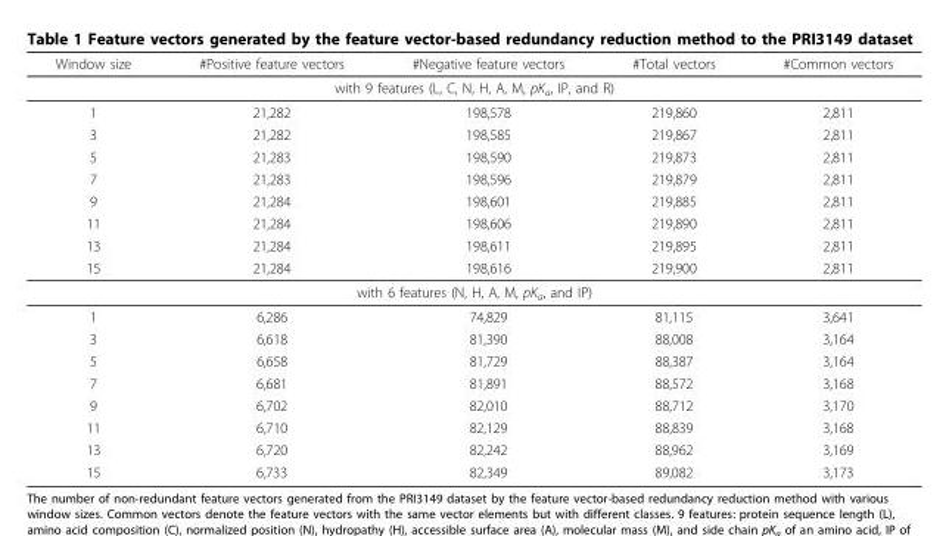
<table><thead><tr><td>Window size</td><td>#Positive feature vectors</td><td>#Negative feature vectors</td><td>#Total vectors</td><td>#Common vectors</td></tr></thead><tbody><tr><td colspan="5">with 9 features (L, C, N, H, A, M, pK<sub>a</sub>, IP, and R)</td></tr><tr><td>1</td><td>21,282</td><td>198,578</td><td>219,860</td><td>2,811</td></tr><tr><td>3</td><td>21,282</td><td>198,585</td><td>219,867</td><td>2,811</td></tr><tr><td>5</td><td>21,283</td><td>198,590</td><td>219,873</td><td>2,811</td></tr><tr><td>7</td><td>21,283</td><td>198,596</td><td>219,879</td><td>2,811</td></tr><tr><td>9</td><td>21,284</td><td>198,601</td><td>219,885</td><td>2,811</td></tr><tr><td>11</td><td>21,284</td><td>198,606</td><td>219,890</td><td>2,811</td></tr><tr><td>13</td><td>21,284</td><td>198,611</td><td>219,895</td><td>2,811</td></tr><tr><td>15</td><td>21,284</td><td>198,616</td><td>219,900</td><td>2,811</td></tr><tr><td colspan="5">with 6 features (N, H, A, M, pK<sub>a</sub>, and IP)</td></tr><tr><td>1</td><td>6,286</td><td>74,829</td><td>81,115</td><td>3,641</td></tr><tr><td>3</td><td>6,618</td><td>81,390</td><td>88,008</td><td>3,164</td></tr><tr><td>5</td><td>6,658</td><td>81,729</td><td>88,387</td><td>3,164</td></tr><tr><td>7</td><td>6,681</td><td>81,891</td><td>88,572</td><td>3,168</td></tr><tr><td>9</td><td>6,702</td><td>82,010</td><td>88,712</td><td>3,170</td></tr><tr><td>11</td><td>6,710</td><td>82,129</td><td>88,839</td><td>3,168</td></tr><tr><td>13</td><td>6,720</td><td>82,242</td><td>88,962</td><td>3,169</td></tr><tr><td>15</td><td>6,733</td><td>82,349</td><td>89,082</td><td>3,173</td></tr></tbody></table>